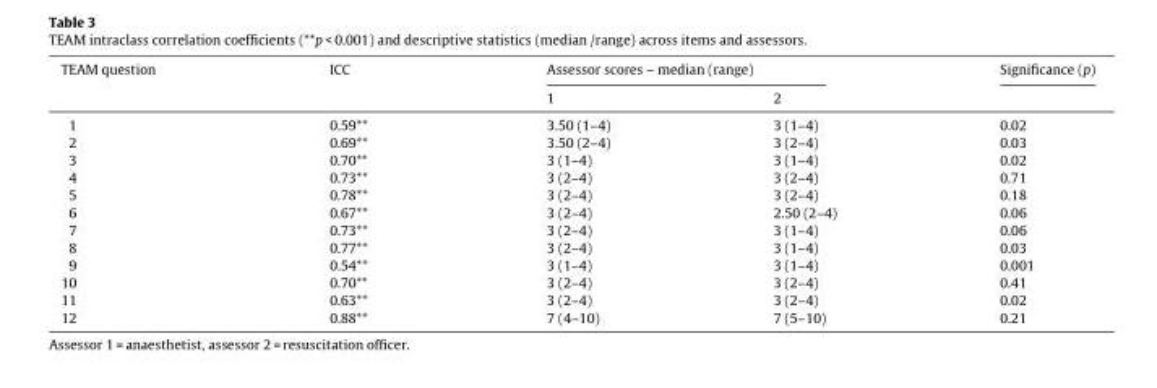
<table><thead><tr><td rowspan="2">TEAM question</td><td rowspan="2">ICC</td><td colspan="2">Assessor scores – median (range)</td><td rowspan="2">Significance (p)</td></tr><tr><td>1</td><td>2</td></tr></thead><tbody><tr><td>1</td><td>0.59**</td><td>3.50 (1–4)</td><td>3 (1–4)</td><td>0.02</td></tr><tr><td>2</td><td>0.69**</td><td>3.50 (2–4)</td><td>3 (2–4)</td><td>0.03</td></tr><tr><td>3</td><td>0.70**</td><td>3 (1–4)</td><td>3 (1–4)</td><td>0.02</td></tr><tr><td>4</td><td>0.73**</td><td>3 (2–4)</td><td>3 (2–4)</td><td>0.71</td></tr><tr><td>5</td><td>0.78**</td><td>3 (2–4)</td><td>3 (2–4)</td><td>0.18</td></tr><tr><td>6</td><td>0.67**</td><td>3 (2–4)</td><td>2.50 (2–4)</td><td>0.06</td></tr><tr><td>7</td><td>0.73**</td><td>3 (2–4)</td><td>3 (1–4)</td><td>0.06</td></tr><tr><td>8</td><td>0.77**</td><td>3 (2–4)</td><td>3 (1–4)</td><td>0.03</td></tr><tr><td>9</td><td>0.54**</td><td>3 (1–4)</td><td>3 (1–4)</td><td>0.001</td></tr><tr><td>10</td><td>0.70**</td><td>3 (2–4)</td><td>3 (2–4)</td><td>0.41</td></tr><tr><td>11</td><td>0.63**</td><td>3 (2–4)</td><td>3 (2–4)</td><td>0.02</td></tr><tr><td>12</td><td>0.88**</td><td>7 (4–10)</td><td>7 (5–10)</td><td>0.21</td></tr></tbody></table>